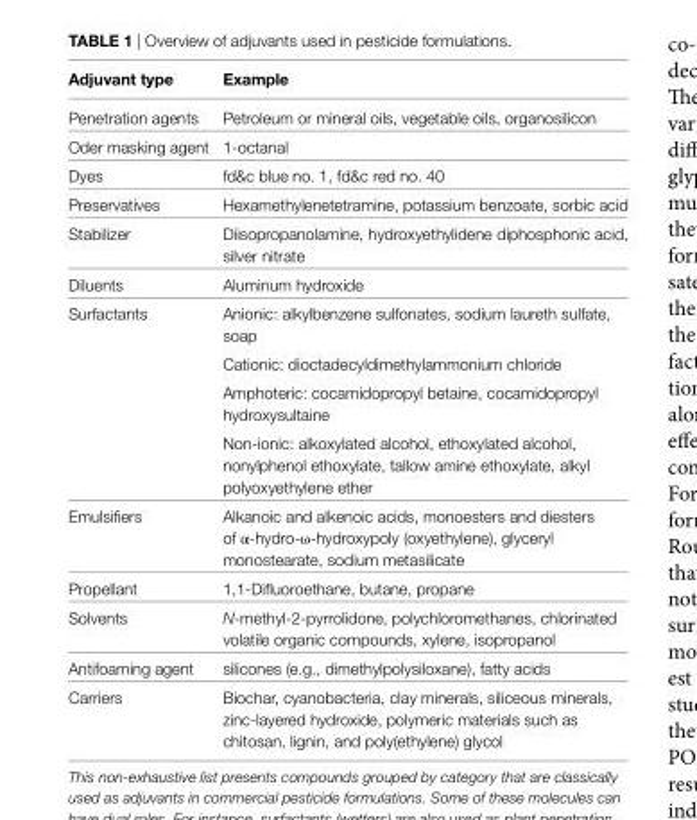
<table><thead><tr><td>Adjuvant type</td><td>example</td></tr></thead><tbody><tr><td>Penetration agents</td><td>Petroleum or mineral oils, vegetable oils, organosilicon</td></tr><tr><td>Oder masking agent</td><td>1-octanal</td></tr><tr><td>Dyes</td><td>fd&amp;c blue no. 1, fd&amp;c red no. 40</td></tr><tr><td>Preservatives</td><td>Hexamethylenetetramine, potassium benzoate, sorbic acid</td></tr><tr><td>Stabilizer</td><td>Diisopropanolamine, hydroxyethylidene diphosphonic acid, silver nitrate</td></tr><tr><td>Diluents</td><td>Aluminum hydroxide</td></tr><tr><td rowspan="4">Surfactants</td><td>Anionic: alkylbenzene sulfonates, sodium laureth sulfate, soap</td></tr><tr><td>Cationic: dioctadecyldimethylammonium chloride</td></tr><tr><td>Amphoteric: cocamidopropyl betaine, cocamidopropyl hydroxysultaine</td></tr><tr><td>Non-ionic: alkoxylated alcohol, ethoxylated alcohol, nonylphenol ethoxylate, tallow amine ethoxylate, alkyl polyoxyethylene ether</td></tr><tr><td>Emulsifiers</td><td>Alkanoic and alkenoic acids, monoesters and diesters of α-hydro-ω-hydroxypoly (oxyethylene), glyceryl monostearate, sodium metasilicate</td></tr><tr><td>Propellant</td><td>1,1-Difluoroethane, butane, propane</td></tr><tr><td>Solvents</td><td>N-methyl-2-pyrrolidone, polychloromethanes, chlorinated volatile organic compounds, xylene, isopropanol</td></tr><tr><td>Antifoaming agent</td><td>silicones (e.g., dimethylpolysiloxane), fatty acids</td></tr><tr><td>Carriers</td><td>Biochar, cyanobacteria, clay minerals, siliceous minerals, zinc-layered hydroxide, polymeric materials such as chitosan, lignin, and poly(ethylene) glycol</td></tr></tbody></table>